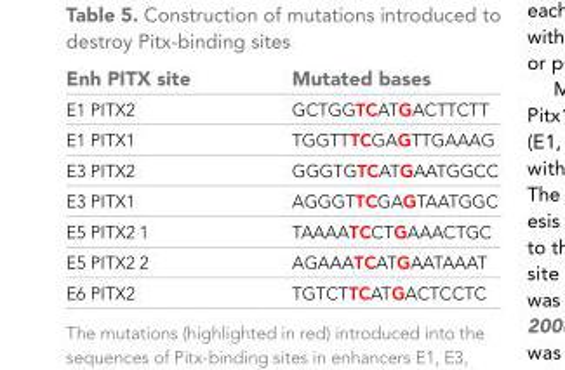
<table><thead><tr><td>Enh PITX site</td><td>Mutated bases</td></tr></thead><tbody><tr><td>E1 PITX2</td><td>GCTGGTCATGACTTCTT</td></tr><tr><td>E1 PITX1</td><td>TGGTTTCGAGTTGAAAG</td></tr><tr><td>E3 PITX2</td><td>GGGTGTCATGAATGGCC</td></tr><tr><td>E3 PITX1</td><td>AGGGTTCGAGTAATGGC</td></tr><tr><td>E5 PITX2 1</td><td>TAAAATCCTGAAACTGC</td></tr><tr><td>E5 PITX2 2</td><td>AGAAATCATGAATAAAT</td></tr><tr><td>E6 PITX2</td><td>TGTCTTCATGACTCCTC</td></tr></tbody></table>